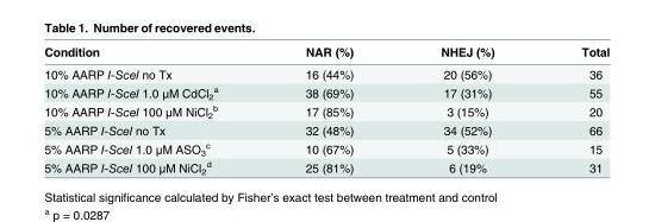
<table><thead><tr><td>Condition</td><td>NAR (%)</td><td>NHEJ (%)</td><td>Total</td></tr></thead><tbody><tr><td>10% AARP I-SceI no Tx</td><td>16 (44%)</td><td>20 (56%)</td><td>36</td></tr><tr><td>10% AARP I-SceI 1.0 μM CdCl<sub>2</sub> <sup>a</sup></td><td>38 (69%)</td><td>17 (31%)</td><td>55</td></tr><tr><td>10% AARP I-SceI 100 μM NiCl<sub>2</sub> <sup>b</sup></td><td>17 (85%)</td><td>3 (15%)</td><td>20</td></tr><tr><td>5% AARP I-SceI no Tx</td><td>32 (48%)</td><td>34 (52%)</td><td>66</td></tr><tr><td>5% AARP I-SceI 1.0 μM ASO<sub>3</sub> <sup>c</sup></td><td>10 (67%)</td><td>5 (33%)</td><td>15</td></tr><tr><td>5% AARP I-SceI 100 μM NiCl<sub>2</sub> <sup>d</sup></td><td>25 (81%)</td><td>6 (19%</td><td>31</td></tr></tbody></table>